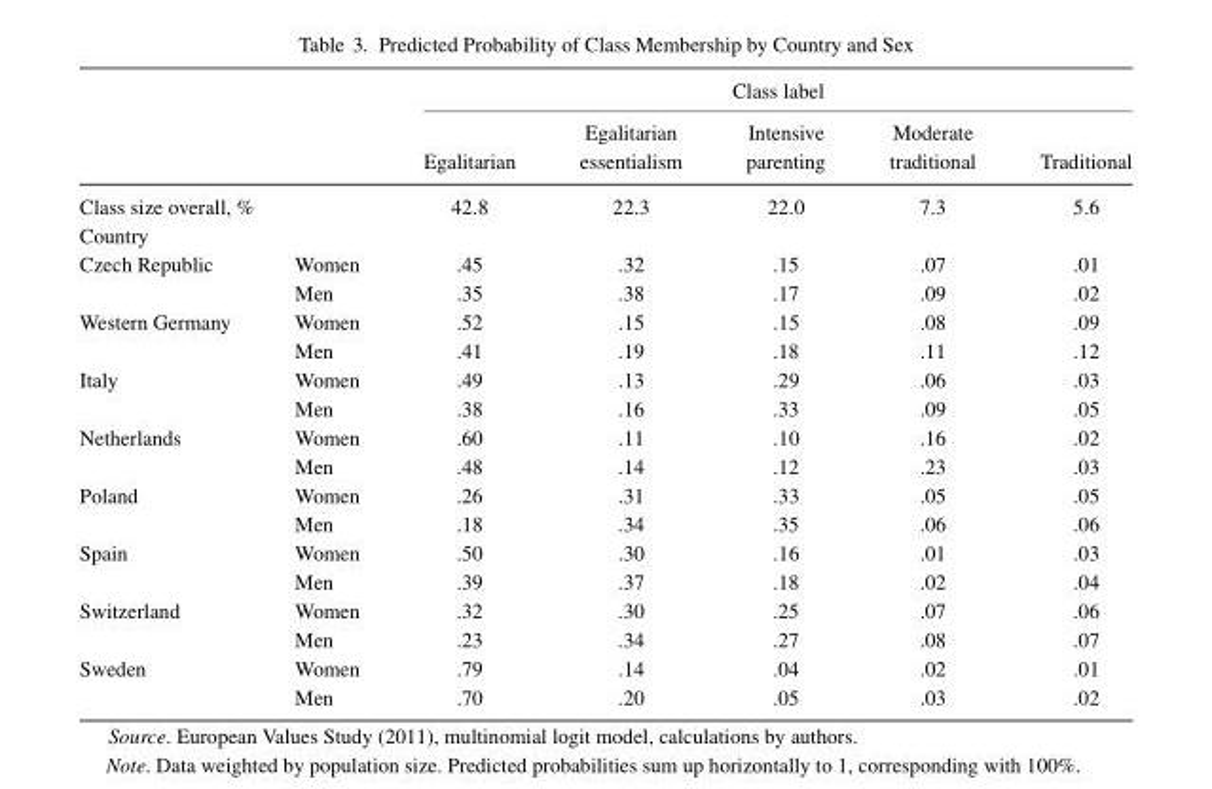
<table><thead><tr><td rowspan="2"></td><td rowspan="2"></td><td colspan="5">Class label</td></tr><tr><td>Egalitarian</td><td>Egalitarian essentialism</td><td>Intensive parenting</td><td>Moderate traditional</td><td>Traditional</td></tr></thead><tbody><tr><td colspan="2">Class size overall, %</td><td>42.8</td><td>22.3</td><td>22.0</td><td>7.3</td><td>5.6</td></tr><tr><td colspan="7">Country</td></tr><tr><td rowspan="2">Czech Republic</td><td>Women</td><td>.45</td><td>.32</td><td>.15</td><td>.07</td><td>.01</td></tr><tr><td>Men</td><td>.35</td><td>.38</td><td>.17</td><td>.09</td><td>.02</td></tr><tr><td rowspan="2">Western Germany</td><td>Women</td><td>.52</td><td>.15</td><td>.15</td><td>.08</td><td>.09</td></tr><tr><td>Men</td><td>.41</td><td>.19</td><td>.18</td><td>.11</td><td>.12</td></tr><tr><td rowspan="2">Italy</td><td>Women</td><td>.49</td><td>.13</td><td>.29</td><td>.06</td><td>.03</td></tr><tr><td>Men</td><td>.38</td><td>.16</td><td>.33</td><td>.09</td><td>.05</td></tr><tr><td rowspan="2">Netherlands</td><td>Women</td><td>.60</td><td>.11</td><td>.10</td><td>.16</td><td>.02</td></tr><tr><td>Men</td><td>.48</td><td>.14</td><td>.12</td><td>.23</td><td>.03</td></tr><tr><td rowspan="2">Poland</td><td>Women</td><td>.26</td><td>.31</td><td>.33</td><td>.05</td><td>.05</td></tr><tr><td>Men</td><td>.18</td><td>.34</td><td>.35</td><td>.06</td><td>.06</td></tr><tr><td rowspan="2">Spain</td><td>Women</td><td>.50</td><td>.30</td><td>.16</td><td>.01</td><td>.03</td></tr><tr><td>Men</td><td>.39</td><td>.37</td><td>.18</td><td>.02</td><td>.04</td></tr><tr><td rowspan="2">Switzerland</td><td>Women</td><td>.32</td><td>.30</td><td>.25</td><td>.07</td><td>.06</td></tr><tr><td>Men</td><td>.23</td><td>.34</td><td>.27</td><td>.08</td><td>.07</td></tr><tr><td rowspan="2">Sweden</td><td>Women</td><td>.79</td><td>.14</td><td>.04</td><td>.02</td><td>.01</td></tr><tr><td>Men</td><td>.70</td><td>.20</td><td>.05</td><td>.03</td><td>.02</td></tr></tbody></table>